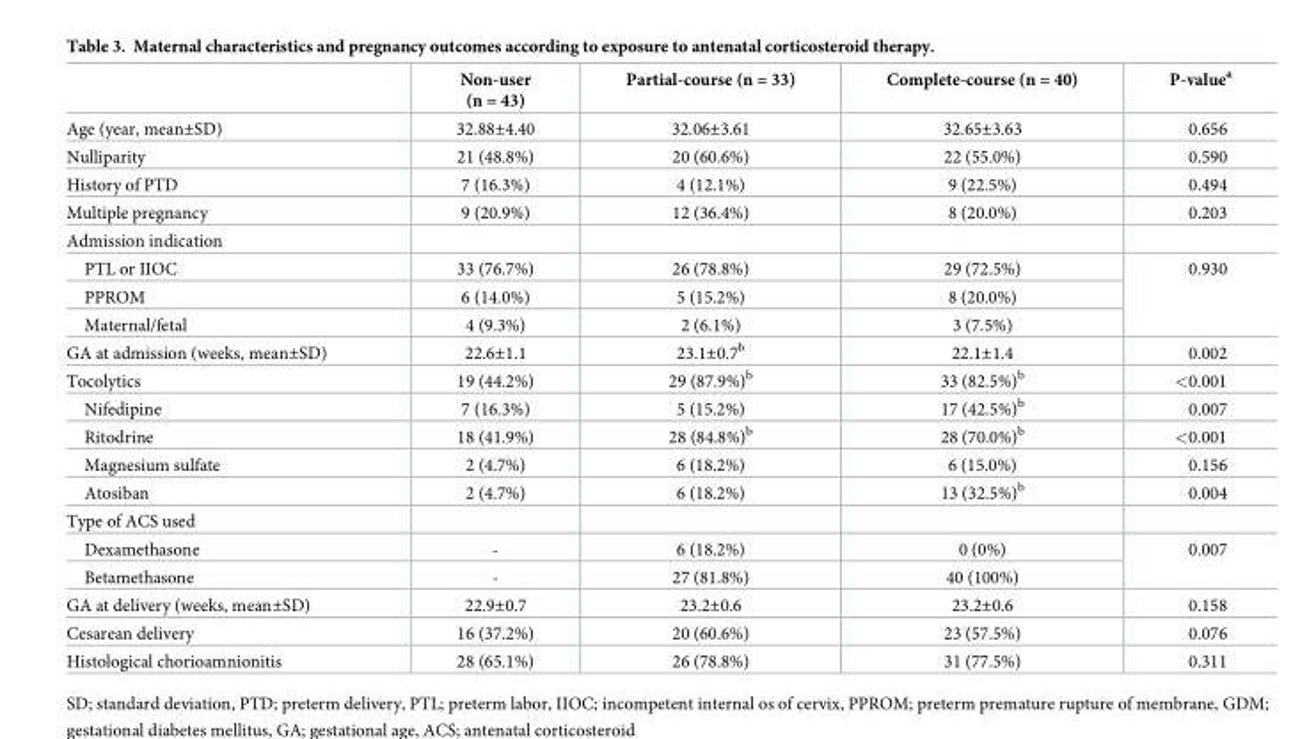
<table><thead><tr><td></td><td>Non-user (n = 43)</td><td>Partial-course (n = 33)</td><td>Complete-course (n = 40)</td><td>P-value<sup>a</sup></td></tr></thead><tbody><tr><td>Age (year, mean±SD)</td><td>32.88±4.40</td><td>32.06±3.61</td><td>32.65±3.63</td><td>0.656</td></tr><tr><td>Nulliparity</td><td>21 (48.8%)</td><td>20 (60.6%)</td><td>22 (55.0%)</td><td>0.590</td></tr><tr><td>History of PTD</td><td>7 (16.3%)</td><td>4 (12.1%)</td><td>9 (22.5%)</td><td>0.494</td></tr><tr><td>Multiple pregnancy</td><td>9 (20.9%)</td><td>12 (36.4%)</td><td>8 (20.0%)</td><td>0.203</td></tr><tr><td colspan="5">Admission indication</td></tr><tr><td>PTL or IIOC</td><td>33 (76.7%)</td><td>26 (78.8%)</td><td>29 (72.5%)</td><td rowspan="3">0.930</td></tr><tr><td>PPROM</td><td>6 (14.0%)</td><td>5 (15.2%)</td><td>8 (20.0%)</td></tr><tr><td>Maternal/fetal</td><td>4 (9.3%)</td><td>2 (6.1%)</td><td>3 (7.5%)</td></tr><tr><td>GA at admission (weeks, mean±SD)</td><td>22.6±1.1</td><td>23.1±0.7<sup>b</sup></td><td>22.1±1.4</td><td>0.002</td></tr><tr><td>Tocolytics</td><td>19 (44.2%)</td><td>29 (87.9%)<sup>b</sup></td><td>33 (82.5%)<sup>b</sup></td><td>&lt;0.001</td></tr><tr><td>Nifedipine</td><td>7 (16.3%)</td><td>5 (15.2%)</td><td>17 (42.5%)<sup>b</sup></td><td>0.007</td></tr><tr><td>Ritodrine</td><td>18 (41.9%)</td><td>28 (84.8%)<sup>b</sup></td><td>28 (70.0%)<sup>b</sup></td><td>&lt;0.001</td></tr><tr><td>Magnesium sulfate</td><td>2 (4.7%)</td><td>6 (18.2%)</td><td>6 (15.0%)</td><td>0.156</td></tr><tr><td>Atosiban</td><td>2 (4.7%)</td><td>6 (18.2%)</td><td>13 (32.5%)<sup>b</sup></td><td>0.004</td></tr><tr><td colspan="5">Type of ACS used</td></tr><tr><td>Dexamethasone</td><td>-</td><td>6 (18.2%)</td><td>0 (0%)</td><td rowspan="2">0.007</td></tr><tr><td>Betamethasone</td><td>-</td><td>27 (81.8%)</td><td>40 (100%)</td></tr><tr><td>GA at delivery (weeks, mean±SD)</td><td>22.9±0.7</td><td>23.2±0.6</td><td>23.2±0.6</td><td>0.158</td></tr><tr><td>Cesarean delivery</td><td>16 (37.2%)</td><td>20 (60.6%)</td><td>23 (57.5%)</td><td>0.076</td></tr><tr><td>Histological chorioamnionitis</td><td>28 (65.1%)</td><td>26 (78.8%)</td><td>31 (77.5%)</td><td>0.311</td></tr></tbody></table>